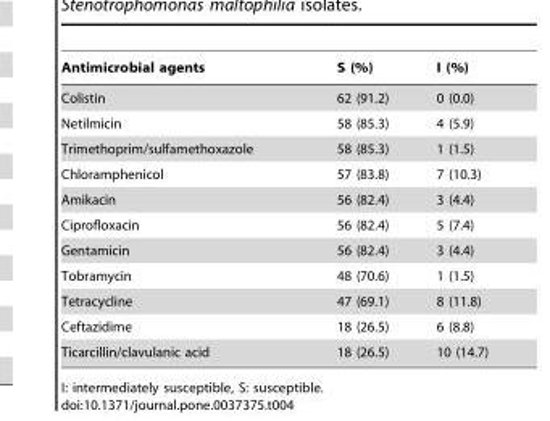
<table><thead><tr><td>Antimicrobial agents</td><td>S (%)</td><td>I (%)</td></tr></thead><tbody><tr><td>Colistin</td><td>62 (91.2)</td><td>0 (0.0)</td></tr><tr><td>Netilmicin</td><td>58 (85.3)</td><td>4 (5.9)</td></tr><tr><td>Trimethoprim/sulfamethoxazole</td><td>58 (85.3)</td><td>1 (1.5)</td></tr><tr><td>Chloramphenicol</td><td>57 (83.8)</td><td>7 (10.3)</td></tr><tr><td>Amikacin</td><td>56 (82.4)</td><td>3 (4.4)</td></tr><tr><td>Ciprofloxacin</td><td>56 (82.4)</td><td>5 (7.4)</td></tr><tr><td>Gentamicin</td><td>56 (82.4)</td><td>3 (4.4)</td></tr><tr><td>Tobramycin</td><td>48 (70.6)</td><td>1 (1.5)</td></tr><tr><td>Tetracycline</td><td>47 (69.1)</td><td>8 (11.8)</td></tr><tr><td>Ceftazidime</td><td>18 (26.5)</td><td>6 (8.8)</td></tr><tr><td>Ticarcillin/clavulanic acid</td><td>18 (26.5)</td><td>10 (14.7)</td></tr></tbody></table>